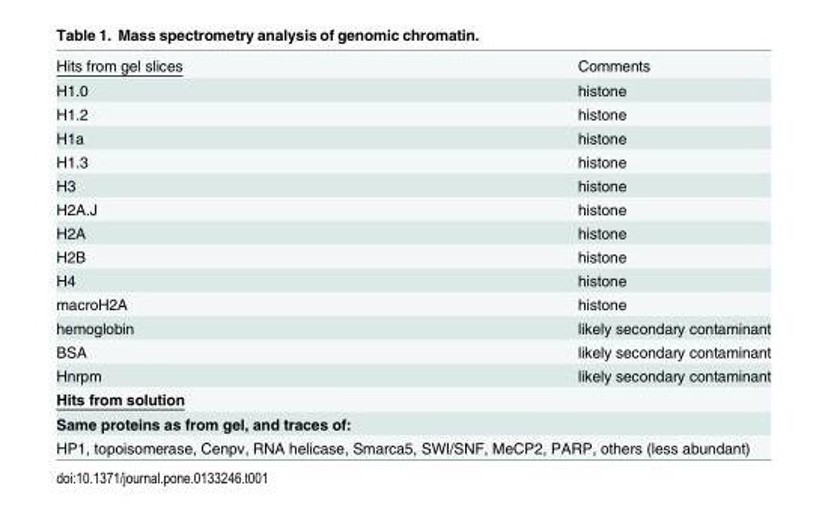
<table><tbody><tr><td>Hits from gel slices</td><td>Comments</td></tr><tr><td>H1.0</td><td>histone</td></tr><tr><td>H1.2</td><td>histone</td></tr><tr><td>H1a</td><td>histone</td></tr><tr><td>H1.3</td><td>histone</td></tr><tr><td>H3</td><td>histone</td></tr><tr><td>H2A.J</td><td>histone</td></tr><tr><td>H2A</td><td>histone</td></tr><tr><td>H2B</td><td>histone</td></tr><tr><td>H4</td><td>histone</td></tr><tr><td>macroH2A</td><td>histone</td></tr><tr><td>hemoglobin</td><td>likely secondary contaminant</td></tr><tr><td>BSA</td><td>likely secondary contaminant</td></tr><tr><td>Hnrpm</td><td>likely secondary contaminant</td></tr><tr><td colspan="2">Hits from solution</td></tr><tr><td colspan="2">Same proteins as from gel, and traces of:</td></tr><tr><td colspan="2">HP1, topoisomerase, Cenpv, RNA helicase, Smarca5, SWI/SNF, MeCP2, PARP, others (less abundant)</td></tr></tbody></table>